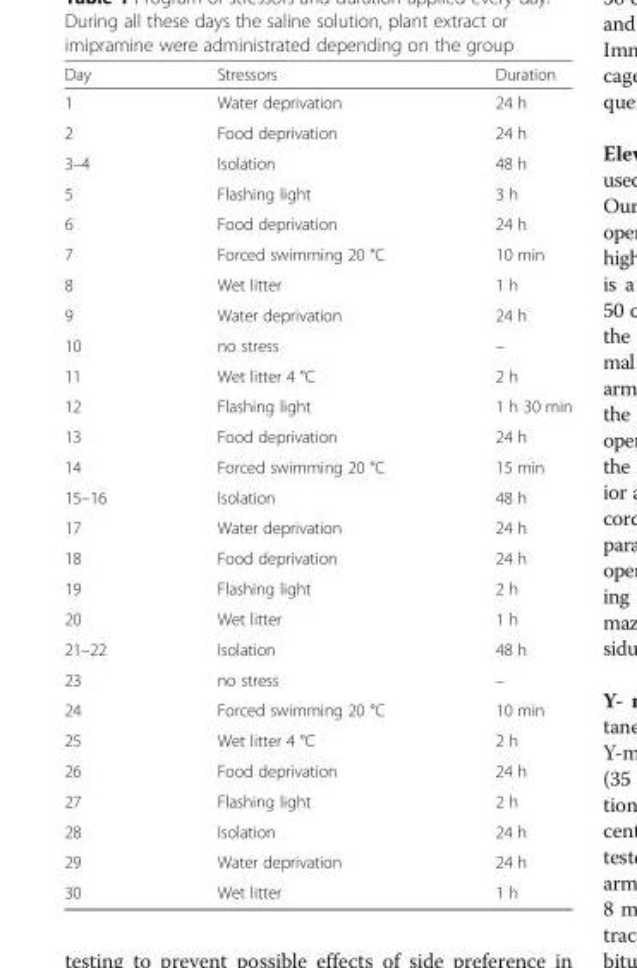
<table><thead><tr><td>Day</td><td>Stressors</td><td>Duration</td></tr></thead><tbody><tr><td>1</td><td>Water deprivation</td><td>24 h</td></tr><tr><td>2</td><td>Food deprivation</td><td>24 h</td></tr><tr><td>3–4</td><td>Isolation</td><td>48 h</td></tr><tr><td>5</td><td>Flashing light</td><td>3 h</td></tr><tr><td>6</td><td>Food deprivation</td><td>24 h</td></tr><tr><td>7</td><td>Forced swimming 20 °C</td><td>10 min</td></tr><tr><td>8</td><td>Wet litter</td><td>1 h</td></tr><tr><td>9</td><td>Water deprivation</td><td>24 h</td></tr><tr><td>10</td><td>no stress</td><td>–</td></tr><tr><td>11</td><td>Wet litter 4 °C</td><td>2 h</td></tr><tr><td>12</td><td>Flashing light</td><td>1 h 30 min</td></tr><tr><td>13</td><td>Food deprivation</td><td>24 h</td></tr><tr><td>14</td><td>Forced swimming 20 °C</td><td>15 min</td></tr><tr><td>15–16</td><td>Isolation</td><td>48 h</td></tr><tr><td>17</td><td>Water deprivation</td><td>24 h</td></tr><tr><td>18</td><td>Food deprivation</td><td>24 h</td></tr><tr><td>19</td><td>Flashing light</td><td>2 h</td></tr><tr><td>20</td><td>Wet litter</td><td>1 h</td></tr><tr><td>21–22</td><td>Isolation</td><td>48 h</td></tr><tr><td>23</td><td>no stress</td><td>–</td></tr><tr><td>24</td><td>Forced swimming 20 °C</td><td>10 min</td></tr><tr><td>25</td><td>Wet litter 4 °C</td><td>2 h</td></tr><tr><td>26</td><td>Food deprivation</td><td>24 h</td></tr><tr><td>27</td><td>Flashing light</td><td>2 h</td></tr><tr><td>28</td><td>Isolation</td><td>24 h</td></tr><tr><td>29</td><td>Water deprivation</td><td>24 h</td></tr><tr><td>30</td><td>Wet litter</td><td>1 h</td></tr></tbody></table>